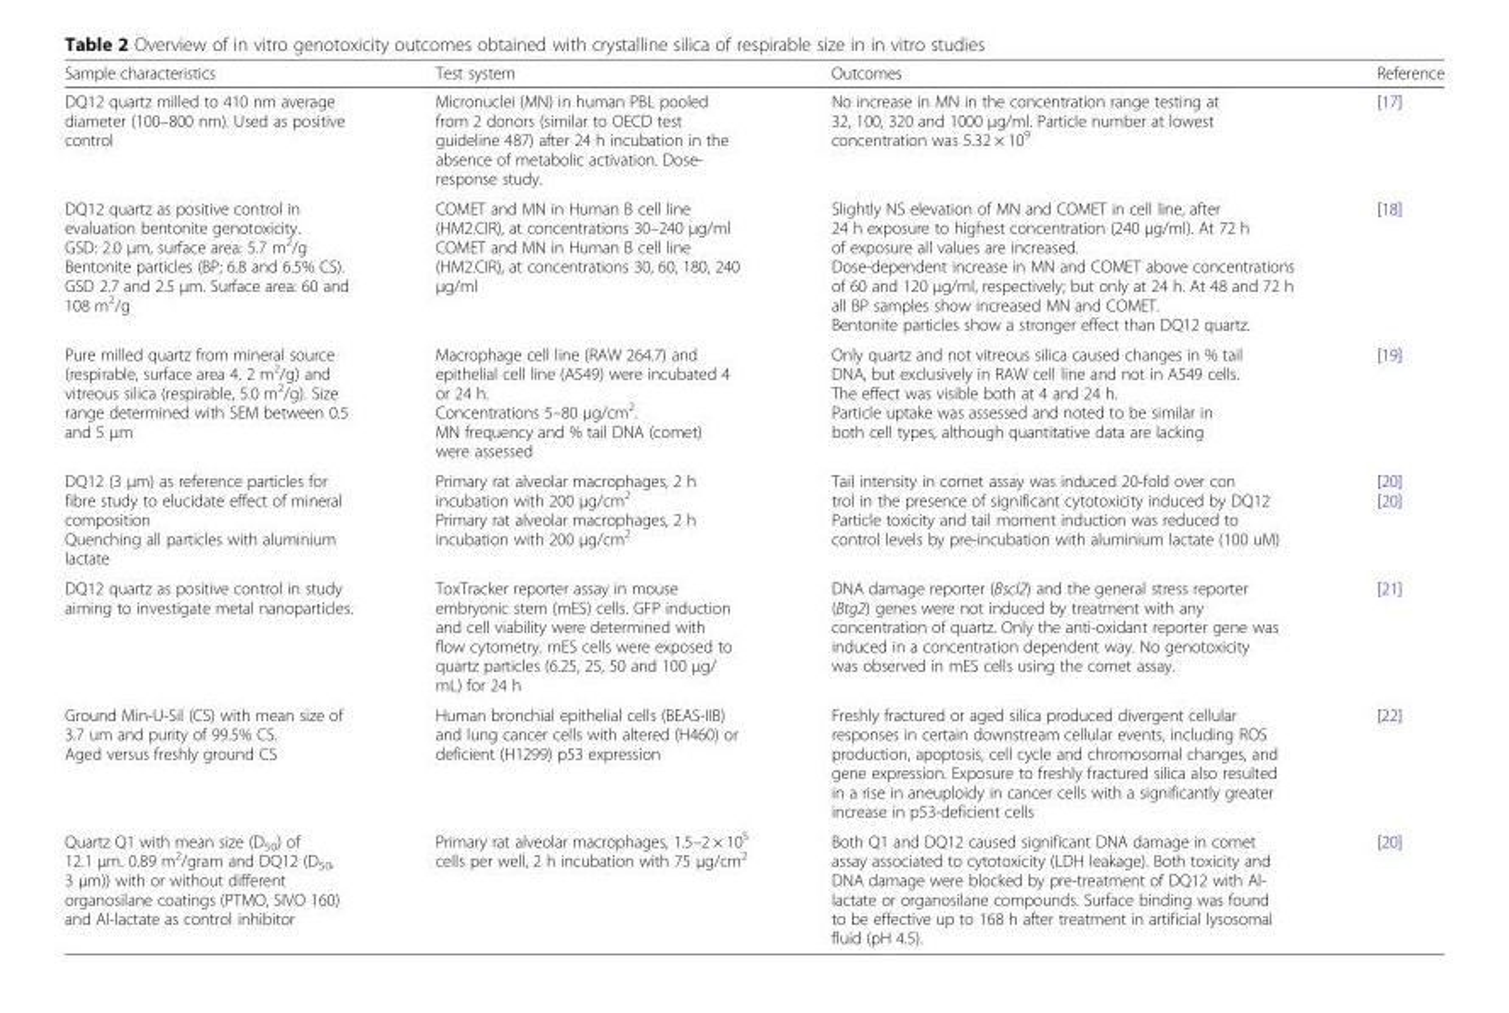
<table><thead><tr><td>Sample characteristics</td><td>Test system</td><td>Outcomes</td><td>Reference</td></tr></thead><tbody><tr><td>DQ12 quartz milled to 410 nm average diameter (100–800 nm). Used as positive control</td><td>Micronuclei (MN) in human PBL pooled from 2 donors (similar to OECD test guideline 487) after 24 h incubation in the absence of metabolic activation. Dose- response study.</td><td>No increase in MN in the concentration range testing at 32, 100, 320 and 1000 μg/ml. Particle number at lowest concentration was 5.32 × 10<sup>9</sup></td><td>[17]</td></tr><tr><td>DQ12 quartz as positive control in evaluation bentonite genotoxicity. GSD: 2.0 μm, surface area: 5.7 m<sup>2</sup>/g Bentonite particles (BP; 6.8 and 6.5% CS). GSD 2.7 and 2.5 μm. Surface area: 60 and 108 m<sup>2</sup>/g</td><td>COMET and MN in Human B cell line (HM2.CIR), at concentrations 30–240 μg/ml COMET and MN in Human B cell line (HM2.CIR), at concentrations 30, 60, 180, 240 μg/ml</td><td>Slightly NS elevation of MN and COMET in cell line, after 24 h exposure to highest concentration (240 μg/ml). At 72 h of exposure all values are increased. Dose-dependent increase in MN and COMET above concentrations of 60 and 120 μg/ml, respectively; but only at 24 h. At 48 and 72 h all BP samples show increased MN and COMET. Bentonite particles show a stronger effect than DQ12 quartz.</td><td>[18]</td></tr><tr><td>Pure milled quartz from mineral source (respirable, surface area 4. 2 m<sup>2</sup>/g) and vitreous silica (respirable, 5.0 m<sup>2</sup>/g). Size range determined with SEM between 0.5 and 5 μm</td><td>Macrophage cell line (RAW 264.7) and epithelial cell line (A549) were incubated 4 or 24 h. Concentrations 5–80 μg/cm<sup>2</sup>. MN frequency and % tail DNA (comet) were assessed</td><td>Only quartz and not vitreous silica caused changes in % tail DNA, but exclusively in RAW cell line and not in A549 cells. The effect was visible both at 4 and 24 h. Particle uptake was assessed and noted to be similar in both cell types, although quantitative data are lacking</td><td>[19]</td></tr><tr><td>DQ12 (3 μm) as reference particles for fibre study to elucidate effect of mineral composition Quenching all particles with aluminium lactate</td><td>Primary rat alveolar macrophages, 2 h incubation with 200 μg/cm<sup>2</sup> Primary rat alveolar macrophages, 2 h incubation with 200 μg/cm<sup>2</sup></td><td>Tail intensity in comet assay was induced 20-fold over con trol in the presence of significant cytotoxicity induced by DQ12 Particle toxicity and tail moment induction was reduced to control levels by pre-incubation with aluminium lactate (100 uM)</td><td>[20] [20]</td></tr><tr><td>DQ12 quartz as positive control in study aiming to investigate metal nanoparticles.</td><td>ToxTracker reporter assay in mouse embryonic stem (mES) cells. GFP induction and cell viability were determined with flow cytometry. mES cells were exposed to quartz particles (6.25, 25, 50 and 100 μg/ mL) for 24 h</td><td>DNA damage reporter (Bscl2) and the general stress reporter (Btg2) genes were not induced by treatment with any concentration of quartz. Only the anti-oxidant reporter gene was induced in a concentration dependent way. No genotoxicity was observed in mES cells using the comet assay.</td><td>[21]</td></tr><tr><td>Ground Min-U-Sil (CS) with mean size of 3.7 um and purity of 99.5% CS. Aged versus freshly ground CS</td><td>Human bronchial epithelial cells (BEAS-IIB) and lung cancer cells with altered (H460) or deficient (H1299) p53 expression</td><td>Freshly fractured or aged silica produced divergent cellular responses in certain downstream cellular events, including ROS production, apoptosis, cell cycle and chromosomal changes, and gene expression. Exposure to freshly fractured silica also resulted in a rise in aneuploidy in cancer cells with a significantly greater increase in p53-deficient cells</td><td>[22]</td></tr><tr><td>Quartz Q1 with mean size (D<sub>50</sub>) of 12.1 μm. 0.89 m<sup>2</sup>/gram and DQ12 (D<sub>50</sub>, 3 μm)) with or without different organosilane coatings (PTMO, SIVO 160) and Al-lactate as control inhibitor</td><td>Primary rat alveolar macrophages, 1.5–2 × 10<sup>5</sup> cells per well, 2 h incubation with 75 μg/cm<sup>2</sup></td><td>Both Q1 and DQ12 caused significant DNA damage in comet assay associated to cytotoxicity (LDH leakage). Both toxicity and DNA damage were blocked by pre-treatment of DQ12 with Al- lactate or organosilane compounds. Surface binding was found to be effective up to 168 h after treatment in artificial lysosomal fluid (pH 4.5).</td><td>[20]</td></tr></tbody></table>